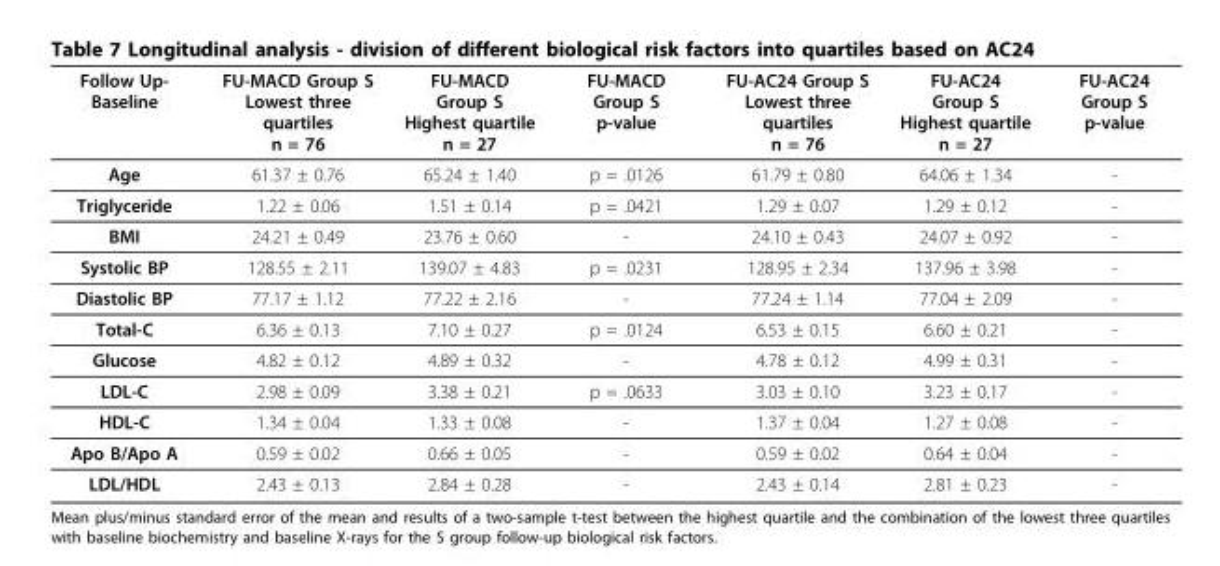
<table><thead><tr><td>Follow Up- Baseline</td><td>FU-MACD Group S Lowest three quartiles n = 76</td><td>FU-MACD Group S Highest quartile n = 27</td><td>FU-MACD Group S p-value</td><td>FU-AC24 Group S Lowest three quartiles n = 76</td><td>FU-AC24 Group S Highest quartile n = 27</td><td>FU-AC24 Group S p-value</td></tr></thead><tbody><tr><td>Age</td><td>61.37 ± 0.76</td><td>65.24 ± 1.40</td><td>p = .0126</td><td>61.79 ± 0.80</td><td>64.06 ± 1.34</td><td>-</td></tr><tr><td>Triglyceride</td><td>1.22 ± 0.06</td><td>1.51 ± 0.14</td><td>p = .0421</td><td>1.29 ± 0.07</td><td>1.29 ± 0.12</td><td>-</td></tr><tr><td>BMI</td><td>24.21 ± 0.49</td><td>23.76 ± 0.60</td><td>-</td><td>24.10 ± 0.43</td><td>24.07 ± 0.92</td><td>-</td></tr><tr><td>Systolic BP</td><td>128.55 ± 2.11</td><td>139.07 ± 4.83</td><td>p = .0231</td><td>128.95 ± 2.34</td><td>137.96 ± 3.98</td><td>-</td></tr><tr><td>Diastolic BP</td><td>77.17 ± 1.12</td><td>77.22 ± 2.16</td><td>-</td><td>77.24 ± 1.14</td><td>77.04 ± 2.09</td><td>-</td></tr><tr><td>Total-C</td><td>6.36 ± 0.13</td><td>7.10 ± 0.27</td><td>p = .0124</td><td>6.53 ± 0.15</td><td>6.60 ± 0.21</td><td>-</td></tr><tr><td>Glucose</td><td>4.82 ± 0.12</td><td>4.89 ± 0.32</td><td>-</td><td>4.78 ± 0.12</td><td>4.99 ± 0.31</td><td>-</td></tr><tr><td>LDL-C</td><td>2.98 ± 0.09</td><td>3.38 ± 0.21</td><td>p = .0633</td><td>3.03 ± 0.10</td><td>3.23 ± 0.17</td><td>-</td></tr><tr><td>HDL-C</td><td>1.34 ± 0.04</td><td>1.33 ± 0.08</td><td>-</td><td>1.37 ± 0.04</td><td>1.27 ± 0.08</td><td>-</td></tr><tr><td>Apo B/Apo A</td><td>0.59 ± 0.02</td><td>0.66 ± 0.05</td><td>-</td><td>0.59 ± 0.02</td><td>0.64 ± 0.04</td><td>-</td></tr><tr><td>LDL/HDL</td><td>2.43 ± 0.13</td><td>2.84 ± 0.28</td><td>-</td><td>2.43 ± 0.14</td><td>2.81 ± 0.23</td><td>-</td></tr></tbody></table>